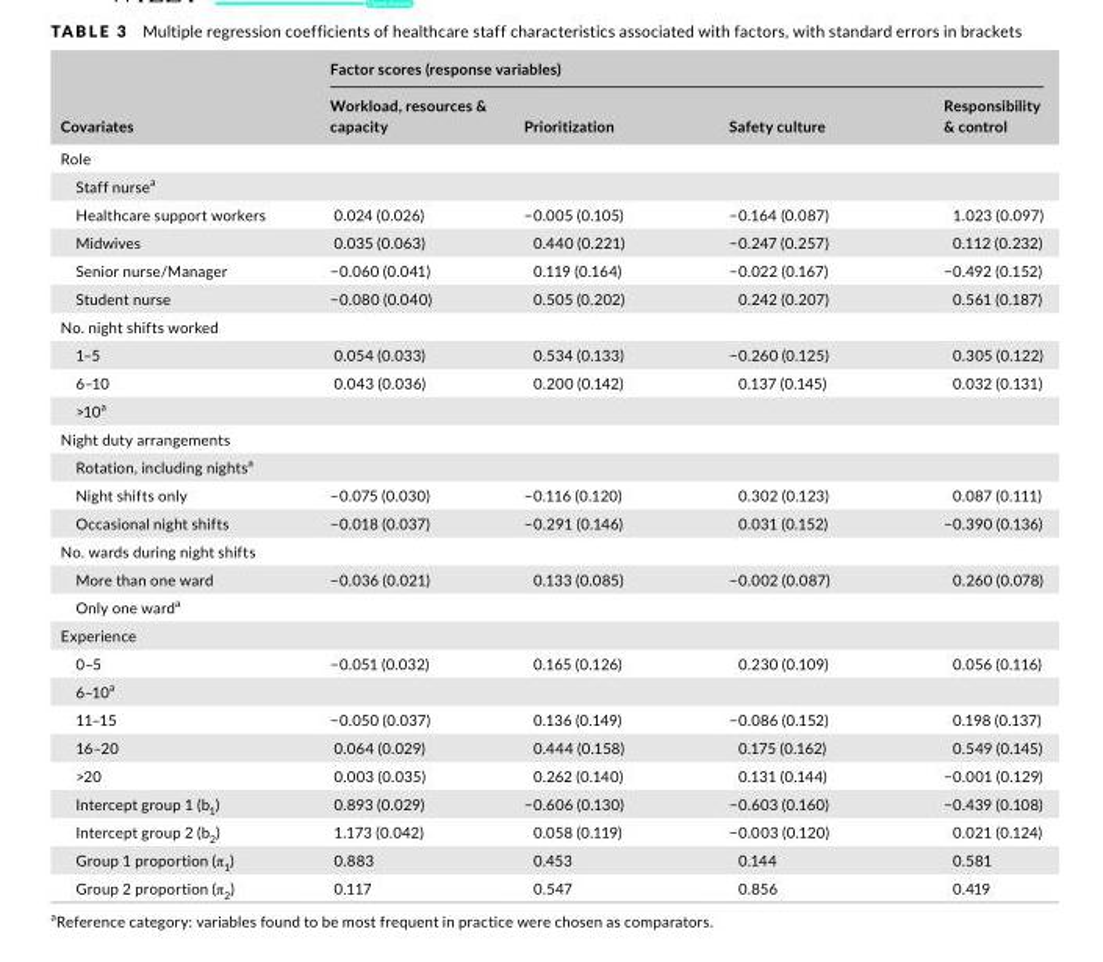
<table><thead><tr><td rowspan="2">Covariates</td><td colspan="4">Factor scores (response variables)</td></tr><tr><td>Workload, resources &amp; capacity</td><td>Prioritization</td><td>Safety culture</td><td>Responsibility &amp; control</td></tr></thead><tbody><tr><td colspan="5">Role</td></tr><tr><td colspan="5">Staff nurse<sup>a</sup></td></tr><tr><td>Healthcare support workers</td><td>0.024 (0.026)</td><td>−0.005 (0.105)</td><td>−0.164 (0.087)</td><td>1.023 (0.097)</td></tr><tr><td>Midwives</td><td>0.035 (0.063)</td><td>0.440 (0.221)</td><td>−0.247 (0.257)</td><td>0.112 (0.232)</td></tr><tr><td>Senior nurse/Manager</td><td>−0.060 (0.041)</td><td>0.119 (0.164)</td><td>−0.022 (0.167)</td><td>−0.492 (0.152)</td></tr><tr><td>Student nurse</td><td>−0.080 (0.040)</td><td>0.505 (0.202)</td><td>0.242 (0.207)</td><td>0.561 (0.187)</td></tr><tr><td colspan="5">No. night shifts worked</td></tr><tr><td>1–5</td><td>0.054 (0.033)</td><td>0.534 (0.133)</td><td>−0.260 (0.125)</td><td>0.305 (0.122)</td></tr><tr><td>6–10</td><td>0.043 (0.036)</td><td>0.200 (0.142)</td><td>0.137 (0.145)</td><td>0.032 (0.131)</td></tr><tr><td colspan="5">&gt;10<sup>a</sup></td></tr><tr><td colspan="5">Night duty arrangements</td></tr><tr><td colspan="5">Rotation, including nights<sup>a</sup></td></tr><tr><td>Night shifts only</td><td>−0.075 (0.030)</td><td>−0.116 (0.120)</td><td>0.302 (0.123)</td><td>0.087 (0.111)</td></tr><tr><td>Occasional night shifts</td><td>−0.018 (0.037)</td><td>−0.291 (0.146)</td><td>0.031 (0.152)</td><td>−0.390 (0.136)</td></tr><tr><td colspan="5">No. wards during night shifts</td></tr><tr><td>More than one ward</td><td>−0.036 (0.021)</td><td>0.133 (0.085)</td><td>−0.002 (0.087)</td><td>0.260 (0.078)</td></tr><tr><td colspan="5">Only one ward<sup>a</sup></td></tr><tr><td colspan="5">Experience</td></tr><tr><td>0–5</td><td>−0.051 (0.032)</td><td>0.165 (0.126)</td><td>0.230 (0.109)</td><td>0.056 (0.116)</td></tr><tr><td colspan="5">6–10<sup>a</sup></td></tr><tr><td>11–15</td><td>−0.050 (0.037)</td><td>0.136 (0.149)</td><td>−0.086 (0.152)</td><td>0.198 (0.137)</td></tr><tr><td>16–20</td><td>0.064 (0.029)</td><td>0.444 (0.158)</td><td>0.175 (0.162)</td><td>0.549 (0.145)</td></tr><tr><td>&gt;20</td><td>0.003 (0.035)</td><td>0.262 (0.140)</td><td>0.131 (0.144)</td><td>−0.001 (0.129)</td></tr><tr><td>Intercept group 1 (b<sub>1</sub>)</td><td>0.893 (0.029)</td><td>−0.606 (0.130)</td><td>−0.603 (0.160)</td><td>−0.439 (0.108)</td></tr><tr><td>Intercept group 2 (b<sub>2</sub>)</td><td>1.173 (0.042)</td><td>0.058 (0.119)</td><td>−0.003 (0.120)</td><td>0.021 (0.124)</td></tr><tr><td>Group 1 proportion (π<sub>1</sub>)</td><td>0.883</td><td>0.453</td><td>0.144</td><td>0.581</td></tr><tr><td>Group 2 proportion (π<sub>2</sub>)</td><td>0.117</td><td>0.547</td><td>0.856</td><td>0.419</td></tr></tbody></table>